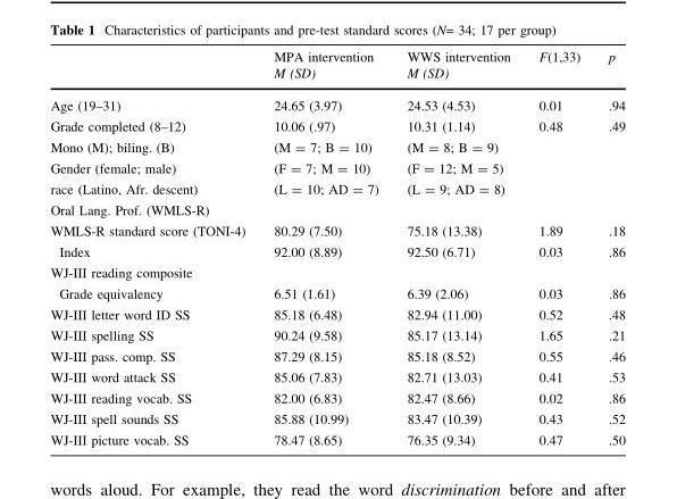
<table><thead><tr><td rowspan="2"></td><td rowspan="2">MPA intervention M (SD)</td><td rowspan="2">WWS intervention M (SD)</td><td rowspan="2">F(1,33)</td><td rowspan="2">p</td></tr><tr></tr></thead><tbody><tr><td>Age (19–31)</td><td>24.65 (3.97)</td><td>24.53 (4.53)</td><td>0.01</td><td>.94</td></tr><tr><td>Grade completed (8–12)</td><td>10.06 (.97)</td><td>10.31 (1.14)</td><td>0.48</td><td>.49</td></tr><tr><td>Mono (M); biling. (B)</td><td>(M = 7; B = 10)</td><td>(M = 8; B = 9)</td><td></td><td></td></tr><tr><td>Gender (female; male)</td><td>(F = 7; M = 10)</td><td>(F = 12; M = 5)</td><td></td><td></td></tr><tr><td>race (Latino, Afr. descent)</td><td>(L = 10; AD = 7)</td><td>(L = 9; AD = 8)</td><td></td><td></td></tr><tr><td colspan="5">Oral Lang. Prof. (WMLS-R)</td></tr><tr><td>WMLS-R standard score (TONI-4)</td><td>80.29 (7.50)</td><td>75.18 (13.38)</td><td>1.89</td><td>.18</td></tr><tr><td>Index</td><td>92.00 (8.89)</td><td>92.50 (6.71)</td><td>0.03</td><td>.86</td></tr><tr><td colspan="5">WJ-III reading composite</td></tr><tr><td>Grade equivalency</td><td>6.51 (1.61)</td><td>6.39 (2.06)</td><td>0.03</td><td>.86</td></tr><tr><td>WJ-III letter word ID SS</td><td>85.18 (6.48)</td><td>82.94 (11.00)</td><td>0.52</td><td>.48</td></tr><tr><td>WJ-III spelling SS</td><td>90.24 (9.58)</td><td>85.17 (13.14)</td><td>1.65</td><td>.21</td></tr><tr><td>WJ-III pass. comp. SS</td><td>87.29 (8.15)</td><td>85.18 (8.52)</td><td>0.55</td><td>.46</td></tr><tr><td>WJ-III word attack SS</td><td>85.06 (7.83)</td><td>82.71 (13.03)</td><td>0.41</td><td>.53</td></tr><tr><td>WJ-III reading vocab. SS</td><td>82.00 (6.83)</td><td>82.47 (8.66)</td><td>0.02</td><td>.86</td></tr><tr><td>WJ-III spell sounds SS</td><td>85.88 (10.99)</td><td>83.47 (10.39)</td><td>0.43</td><td>.52</td></tr><tr><td>WJ-III picture vocab. SS</td><td>78.47 (8.65)</td><td>76.35 (9.34)</td><td>0.47</td><td>.50</td></tr></tbody></table>